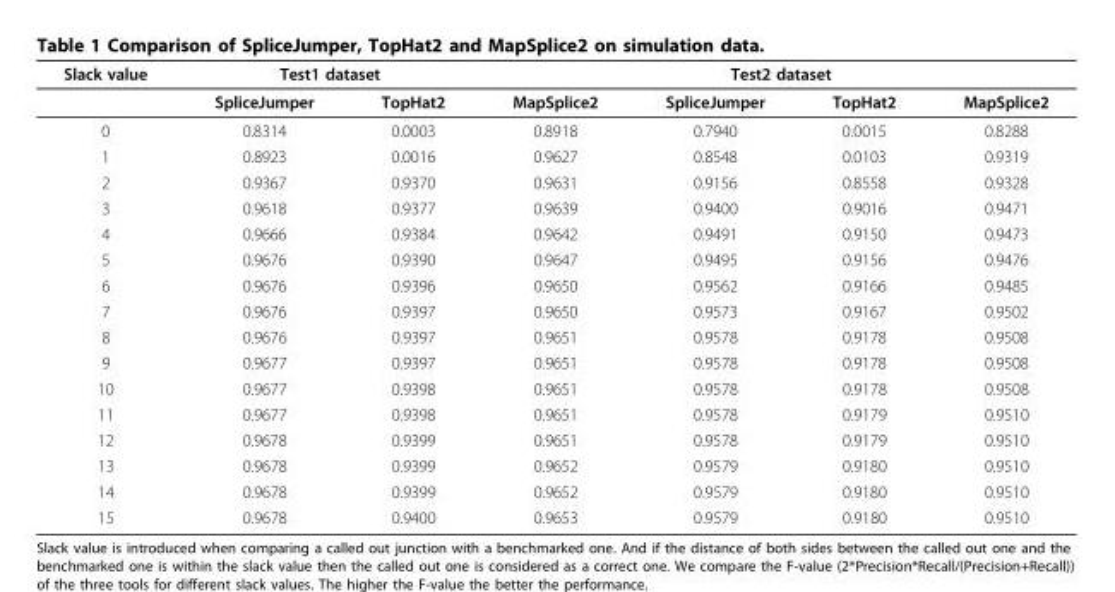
<table><thead><tr><td rowspan="2">Slack value</td><td colspan="2">Test1 dataset</td><td rowspan="2">MapSplice2</td><td colspan="2">Test2 dataset</td><td rowspan="2">MapSplice2</td></tr><tr><td>SpliceJumper</td><td>TopHat2</td><td>SpliceJumper</td><td>TopHat2</td></tr></thead><tbody><tr><td>0</td><td>0.8314</td><td>0.0003</td><td>0.8918</td><td>0.7940</td><td>0.0015</td><td>0.8288</td></tr><tr><td>1</td><td>0.8923</td><td>0.0016</td><td>0.9627</td><td>0.8548</td><td>0.0103</td><td>0.9319</td></tr><tr><td>2</td><td>0.9367</td><td>0.9370</td><td>0.9631</td><td>0.9156</td><td>0.8558</td><td>0.9328</td></tr><tr><td>3</td><td>0.9618</td><td>0.9377</td><td>0.9639</td><td>0.9400</td><td>0.9016</td><td>0.9471</td></tr><tr><td>4</td><td>0.9666</td><td>0.9384</td><td>0.9642</td><td>0.9491</td><td>0.9150</td><td>0.9473</td></tr><tr><td>5</td><td>0.9676</td><td>0.9390</td><td>0.9647</td><td>0.9495</td><td>0.9156</td><td>0.9476</td></tr><tr><td>6</td><td>0.9676</td><td>0.9396</td><td>0.9650</td><td>0.9562</td><td>0.9166</td><td>0.9485</td></tr><tr><td>7</td><td>0.9676</td><td>0.9397</td><td>0.9650</td><td>0.9573</td><td>0.9167</td><td>0.9502</td></tr><tr><td>8</td><td>0.9676</td><td>0.9397</td><td>0.9651</td><td>0.9578</td><td>0.9178</td><td>0.9508</td></tr><tr><td>9</td><td>0.9677</td><td>0.9397</td><td>0.9651</td><td>0.9578</td><td>0.9178</td><td>0.9508</td></tr><tr><td>10</td><td>0.9677</td><td>0.9398</td><td>0.9651</td><td>0.9578</td><td>0.9178</td><td>0.9508</td></tr><tr><td>11</td><td>0.9677</td><td>0.9398</td><td>0.9651</td><td>0.9578</td><td>0.9179</td><td>0.9510</td></tr><tr><td>12</td><td>0.9678</td><td>0.9399</td><td>0.9651</td><td>0.9578</td><td>0.9179</td><td>0.9510</td></tr><tr><td>13</td><td>0.9678</td><td>0.9399</td><td>0.9652</td><td>0.9579</td><td>0.9180</td><td>0.9510</td></tr><tr><td>14</td><td>0.9678</td><td>0.9399</td><td>0.9652</td><td>0.9579</td><td>0.9180</td><td>0.9510</td></tr><tr><td>15</td><td>0.9678</td><td>0.9400</td><td>0.9653</td><td>0.9579</td><td>0.9180</td><td>0.9510</td></tr></tbody></table>